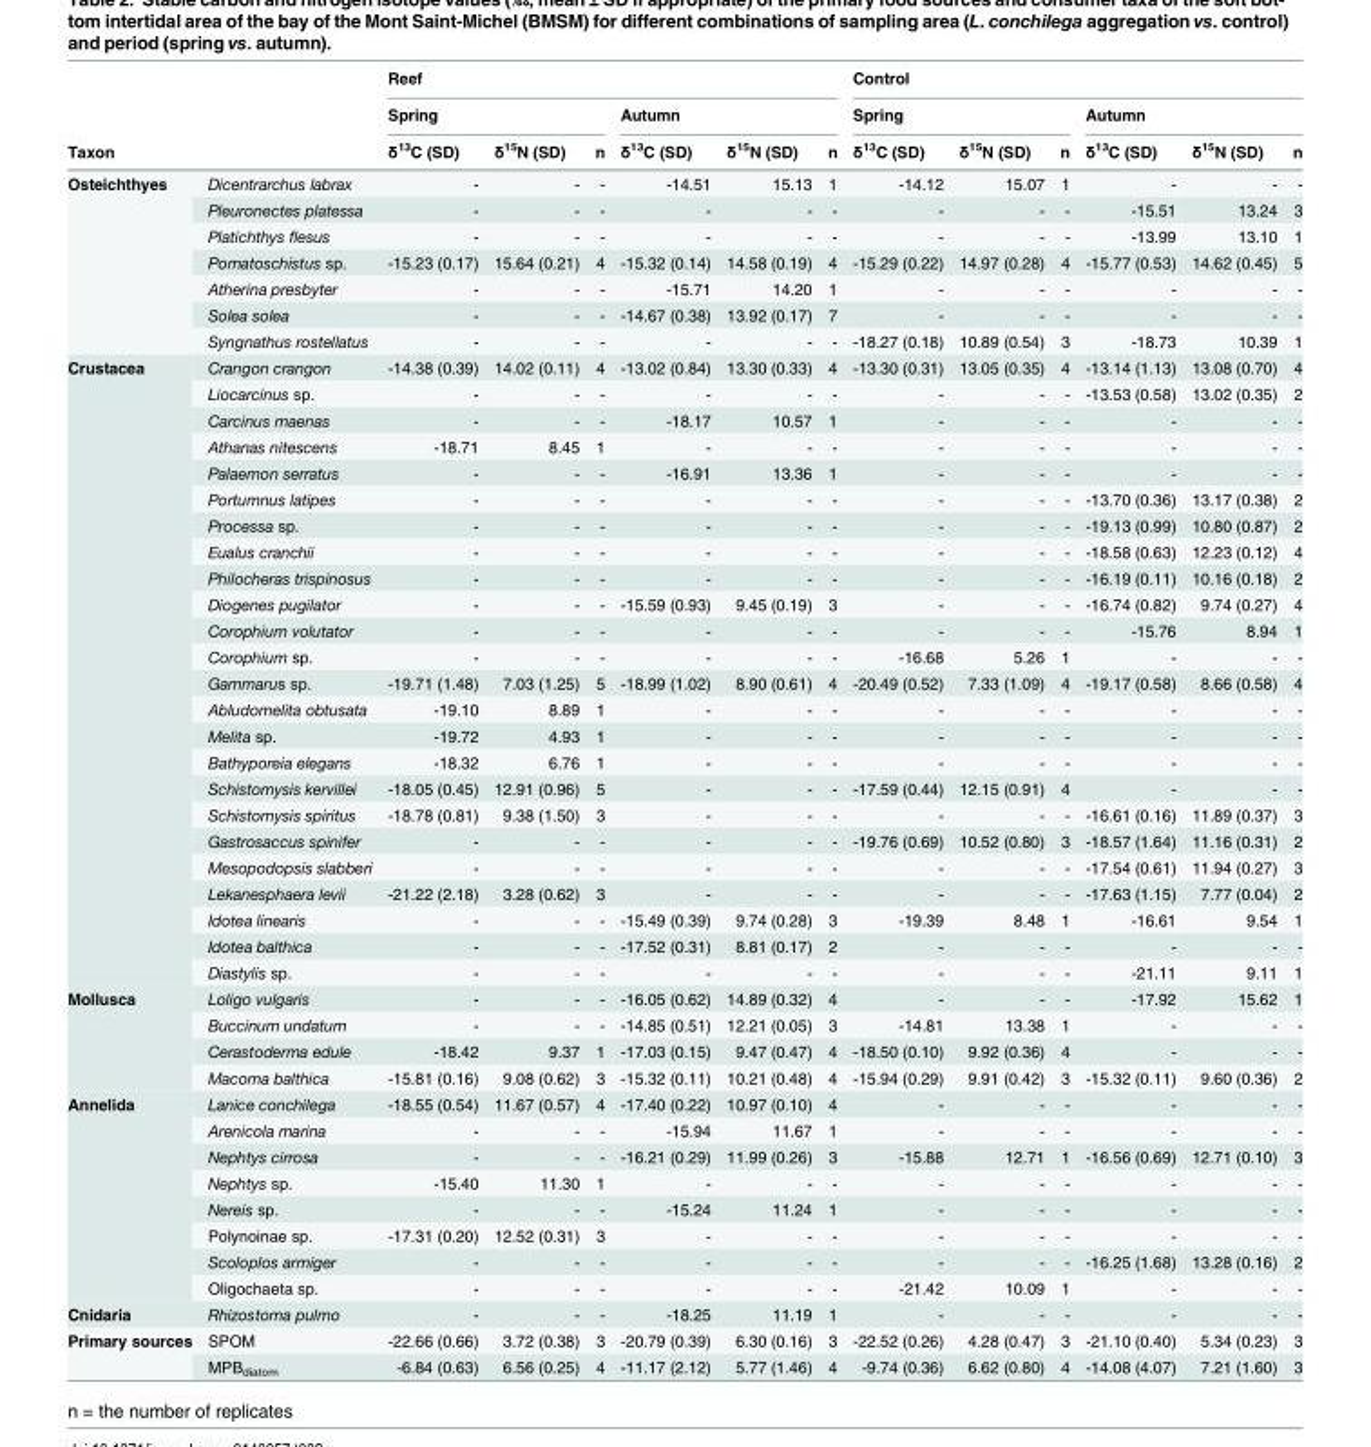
<table><thead><tr><td rowspan="3">Taxon</td><td rowspan="3"></td><td colspan="6">Reef</td><td colspan="6">Control</td></tr><tr><td colspan="3">Spring</td><td colspan="3">Autumn</td><td colspan="3">Spring</td><td colspan="3">Autumn</td></tr><tr><td>δ<sup>13</sup>C (SD)</td><td>δ<sup>15</sup>N (SD)</td><td>n</td><td>δ<sup>13</sup>C (SD)</td><td>δ<sup>15</sup>N (SD)</td><td>n</td><td>δ<sup>13</sup>C (SD)</td><td>δ<sup>15</sup>N (SD)</td><td>n</td><td>δ<sup>13</sup>C (SD)</td><td>δ<sup>15</sup>N (SD)</td><td>n</td></tr></thead><tbody><tr><td rowspan="7">Osteichthyes</td><td>Dicentrarchus labrax</td><td>-</td><td>-</td><td>-</td><td>-14.51</td><td>15.13</td><td>1</td><td>-14.12</td><td>15.07</td><td>1</td><td>-</td><td>-</td><td>-</td></tr><tr><td>Pleuronectes platessa</td><td>-</td><td>-</td><td>-</td><td>-</td><td>-</td><td>-</td><td>-</td><td>-</td><td>-</td><td>-15.51</td><td>13.24</td><td>3</td></tr><tr><td>Platichthys flesus</td><td>-</td><td>-</td><td>-</td><td>-</td><td>-</td><td>-</td><td>-</td><td>-</td><td>-</td><td>-13.99</td><td>13.10</td><td>1</td></tr><tr><td>Pomatoschistus sp.</td><td>-15.23 (0.17)</td><td>15.64 (0.21)</td><td>4</td><td>-15.32 (0.14)</td><td>14.58 (0.19)</td><td>4</td><td>-15.29 (0.22)</td><td>14.97 (0.28)</td><td>4</td><td>-15.77 (0.53)</td><td>14.62 (0.45)</td><td>5</td></tr><tr><td>Atherina presbyter</td><td>-</td><td>-</td><td>-</td><td>-15.71</td><td>14.20</td><td>1</td><td>-</td><td>-</td><td>-</td><td>-</td><td>-</td><td>-</td></tr><tr><td>Solea solea</td><td>-</td><td>-</td><td>-</td><td>-14.67 (0.38)</td><td>13.92 (0.17)</td><td>7</td><td>-</td><td>-</td><td>-</td><td>-</td><td>-</td><td>-</td></tr><tr><td>Syngnathus rostellatus</td><td>-</td><td>-</td><td>-</td><td>-</td><td>-</td><td>-</td><td>-18.27 (0.18)</td><td>10.89 (0.54)</td><td>3</td><td>-18.73</td><td>10.39</td><td>1</td></tr><tr><td rowspan="24">Crustacea</td><td>Crangon crangon</td><td>-14.38 (0.39)</td><td>14.02 (0.11)</td><td>4</td><td>-13.02 (0.84)</td><td>13.30 (0.33)</td><td>4</td><td>-13.30 (0.31)</td><td>13.05 (0.35)</td><td>4</td><td>-13.14 (1.13)</td><td>13.08 (0.70)</td><td>4</td></tr><tr><td>Liocarcinus sp.</td><td>-</td><td>-</td><td>-</td><td>-</td><td>-</td><td>-</td><td>-</td><td>-</td><td>-</td><td>-13.53 (0.58)</td><td>13.02 (0.35)</td><td>2</td></tr><tr><td>Carcinus maenas</td><td>-</td><td>-</td><td>-</td><td>-18.17</td><td>10.57</td><td>1</td><td>-</td><td>-</td><td>-</td><td>-</td><td>-</td><td>-</td></tr><tr><td>Athanas nitescens</td><td>-18.71</td><td>8.45</td><td>1</td><td>-</td><td>-</td><td>-</td><td>-</td><td>-</td><td>-</td><td>-</td><td>-</td><td>-</td></tr><tr><td>Palaemon serratus</td><td>-</td><td>-</td><td>-</td><td>-16.91</td><td>13.36</td><td>1</td><td>-</td><td>-</td><td>-</td><td>-</td><td>-</td><td>-</td></tr><tr><td>Portumnus latipes</td><td>-</td><td>-</td><td>-</td><td>-</td><td>-</td><td>-</td><td>-</td><td>-</td><td>-</td><td>-13.70 (0.36)</td><td>13.17 (0.38)</td><td>2</td></tr><tr><td>Processa sp.</td><td>-</td><td>-</td><td>-</td><td>-</td><td>-</td><td>-</td><td>-</td><td>-</td><td>-</td><td>-19.13 (0.99)</td><td>10.80 (0.87)</td><td>2</td></tr><tr><td>Eualus cranchii</td><td>-</td><td>-</td><td>-</td><td>-</td><td>-</td><td>-</td><td>-</td><td>-</td><td>-</td><td>-18.58 (0.63)</td><td>12.23 (0.12)</td><td>4</td></tr><tr><td>Philocheras trispinosus</td><td>-</td><td>-</td><td>-</td><td>-</td><td>-</td><td>-</td><td>-</td><td>-</td><td>-</td><td>-16.19 (0.11)</td><td>10.16 (0.18)</td><td>2</td></tr><tr><td>Diogenes pugilator</td><td>-</td><td>-</td><td>-</td><td>-15.59 (0.93)</td><td>9.45 (0.19)</td><td>3</td><td>-</td><td>-</td><td>-</td><td>-16.74 (0.82)</td><td>9.74 (0.27)</td><td>4</td></tr><tr><td>Corophium volutator</td><td>-</td><td>-</td><td>-</td><td>-</td><td>-</td><td>-</td><td>-</td><td>-</td><td>-</td><td>-15.76</td><td>8.94</td><td>1</td></tr><tr><td>Corophium sp.</td><td>-</td><td>-</td><td>-</td><td>-</td><td>-</td><td>-</td><td>-16.68</td><td>5.26</td><td>1</td><td>-</td><td>-</td><td>-</td></tr><tr><td>Gammarus sp.</td><td>-19.71 (1.48)</td><td>7.03 (1.25)</td><td>5</td><td>-18.99 (1.02)</td><td>8.90 (0.61)</td><td>4</td><td>-20.49 (0.52)</td><td>7.33 (1.09)</td><td>4</td><td>-19.17 (0.58)</td><td>8.66 (0.58)</td><td>4</td></tr><tr><td>Abludomelita obtusata</td><td>-19.10</td><td>8.89</td><td>1</td><td>-</td><td>-</td><td>-</td><td>-</td><td>-</td><td>-</td><td>-</td><td>-</td><td>-</td></tr><tr><td>Melita sp.</td><td>-19.72</td><td>4.93</td><td>1</td><td>-</td><td>-</td><td>-</td><td>-</td><td>-</td><td>-</td><td>-</td><td>-</td><td>-</td></tr><tr><td>Bathyporeia elegans</td><td>-18.32</td><td>6.76</td><td>1</td><td>-</td><td>-</td><td>-</td><td>-</td><td>-</td><td>-</td><td>-</td><td>-</td><td>-</td></tr><tr><td>Schistomysis kervillei</td><td>-18.05 (0.45)</td><td>12.91 (0.96)</td><td>5</td><td>-</td><td>-</td><td>-</td><td>-17.59 (0.44)</td><td>12.15 (0.91)</td><td>4</td><td>-</td><td>-</td><td>-</td></tr><tr><td>Schistomysis spiritus</td><td>-18.78 (0.81)</td><td>9.38 (1.50)</td><td>3</td><td>-</td><td>-</td><td>-</td><td>-</td><td>-</td><td>-</td><td>-16.61 (0.16)</td><td>11.89 (0.37)</td><td>3</td></tr><tr><td>Gastrosaccus spinifer</td><td>-</td><td>-</td><td>-</td><td>-</td><td>-</td><td>-</td><td>-19.76 (0.69)</td><td>10.52 (0.80)</td><td>3</td><td>-18.57 (1.64)</td><td>11.16 (0.31)</td><td>2</td></tr><tr><td>Mesopodopsis slabberi</td><td>-</td><td>-</td><td>-</td><td>-</td><td>-</td><td>-</td><td>-</td><td>-</td><td>-</td><td>-17.54 (0.61)</td><td>11.94 (0.27)</td><td>3</td></tr><tr><td>Lekanesphaera levii</td><td>-21.22 (2.18)</td><td>3.28 (0.62)</td><td>3</td><td>-</td><td>-</td><td>-</td><td>-</td><td>-</td><td>-</td><td>-17.63 (1.15)</td><td>7.77 (0.04)</td><td>2</td></tr><tr><td>Idotea linearis</td><td>-</td><td>-</td><td>-</td><td>-15.49 (0.39)</td><td>9.74 (0.28)</td><td>3</td><td>-19.39</td><td>8.48</td><td>1</td><td>-16.61</td><td>9.54</td><td>1</td></tr><tr><td>Idotea balthica</td><td>-</td><td>-</td><td>-</td><td>-17.52 (0.31)</td><td>8.81 (0.17)</td><td>2</td><td>-</td><td>-</td><td>-</td><td>-</td><td>-</td><td>-</td></tr><tr><td>Diastylis sp.</td><td>-</td><td>-</td><td>-</td><td>-</td><td>-</td><td>-</td><td>-</td><td>-</td><td>-</td><td>-21.11</td><td>9.11</td><td>1</td></tr><tr><td rowspan="4">Mollusca</td><td>Loligo vulgaris</td><td>-</td><td>-</td><td>-</td><td>-16.05 (0.62)</td><td>14.89 (0.32)</td><td>4</td><td>-</td><td>-</td><td>-</td><td>-17.92</td><td>15.62</td><td>1</td></tr><tr><td>Buccinum undatum</td><td>-</td><td>-</td><td>-</td><td>-14.85 (0.51)</td><td>12.21 (0.05)</td><td>3</td><td>-14.81</td><td>13.38</td><td>1</td><td>-</td><td>-</td><td>-</td></tr><tr><td>Cerastoderma edule</td><td>-18.42</td><td>9.37</td><td>1</td><td>-17.03 (0.15)</td><td>9.47 (0.47)</td><td>4</td><td>-18.50 (0.10)</td><td>9.92 (0.36)</td><td>4</td><td>-</td><td>-</td><td>-</td></tr><tr><td>Macoma balthica</td><td>-15.81 (0.16)</td><td>9.08 (0.62)</td><td>3</td><td>-15.32 (0.11)</td><td>10.21 (0.48)</td><td>4</td><td>-15.94 (0.29)</td><td>9.91 (0.42)</td><td>3</td><td>-15.32 (0.11)</td><td>9.60 (0.36)</td><td>2</td></tr><tr><td rowspan="8">Annelida</td><td>Lanice conchilega</td><td>-18.55 (0.54)</td><td>11.67 (0.57)</td><td>4</td><td>-17.40 (0.22)</td><td>10.97 (0.10)</td><td>4</td><td>-</td><td>-</td><td>-</td><td>-</td><td>-</td><td>-</td></tr><tr><td>Arenicola marina</td><td>-</td><td>-</td><td>-</td><td>-15.94</td><td>11.67</td><td>1</td><td>-</td><td>-</td><td>-</td><td>-</td><td>-</td><td>-</td></tr><tr><td>Nephtys cirrosa</td><td>-</td><td>-</td><td>-</td><td>-16.21 (0.29)</td><td>11.99 (0.26)</td><td>3</td><td>-15.88</td><td>12.71</td><td>1</td><td>-16.56 (0.69)</td><td>12.71 (0.10)</td><td>3</td></tr><tr><td>Nephtys sp.</td><td>-15.40</td><td>11.30</td><td>1</td><td>-</td><td>-</td><td>-</td><td>-</td><td>-</td><td>-</td><td>-</td><td>-</td><td>-</td></tr><tr><td>Nereis sp.</td><td>-</td><td>-</td><td>-</td><td>-15.24</td><td>11.24</td><td>1</td><td>-</td><td>-</td><td>-</td><td>-</td><td>-</td><td>-</td></tr><tr><td>Polynoinae sp.</td><td>-17.31 (0.20)</td><td>12.52 (0.31)</td><td>3</td><td>-</td><td>-</td><td>-</td><td>-</td><td>-</td><td>-</td><td>-</td><td>-</td><td>-</td></tr><tr><td>Scoloplos armiger</td><td>-</td><td>-</td><td>-</td><td>-</td><td>-</td><td>-</td><td>-</td><td>-</td><td>-</td><td>-16.25 (1.68)</td><td>13.28 (0.16)</td><td>2</td></tr><tr><td>Oligochaeta sp.</td><td>-</td><td>-</td><td>-</td><td>-</td><td>-</td><td>-</td><td>-21.42</td><td>10.09</td><td>1</td><td>-</td><td>-</td><td>-</td></tr><tr><td>Cnidaria</td><td>Rhizostoma pulmo</td><td>-</td><td>-</td><td>-</td><td>-18.25</td><td>11.19</td><td>1</td><td>-</td><td>-</td><td>-</td><td>-</td><td>-</td><td>-</td></tr><tr><td rowspan="2">Primary sources</td><td>SPOM</td><td>-22.66 (0.66)</td><td>3.72 (0.38)</td><td>3</td><td>-20.79 (0.39)</td><td>6.30 (0.16)</td><td>3</td><td>-22.52 (0.26)</td><td>4.28 (0.47)</td><td>3</td><td>-21.10 (0.40)</td><td>5.34 (0.23)</td><td>3</td></tr><tr><td>MPB<sub>diatom</sub></td><td>-6.84 (0.63)</td><td>6.56 (0.25)</td><td>4</td><td>-11.17 (2.12)</td><td>5.77 (1.46)</td><td>4</td><td>-9.74 (0.36)</td><td>6.62 (0.80)</td><td>4</td><td>-14.08 (4.07)</td><td>7.21 (1.60)</td><td>3</td></tr></tbody></table>